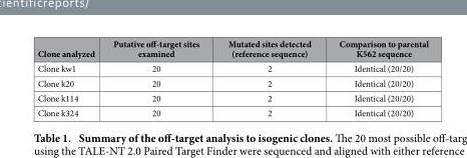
<table><thead><tr><td>Clone analyzed</td><td>Putative off-target sites examined</td><td>Mutated sites detected (reference sequence)</td><td>Comparison to parental K562 sequence</td></tr></thead><tbody><tr><td>Clone kw1</td><td>20</td><td>2</td><td>Identical (20/20)</td></tr><tr><td>Clone k20</td><td>20</td><td>2</td><td>Identical (20/20)</td></tr><tr><td>Clone k114</td><td>20</td><td>2</td><td>Identical (20/20)</td></tr><tr><td>Clone k324</td><td>20</td><td>2</td><td>Identical (20/20)</td></tr></tbody></table>